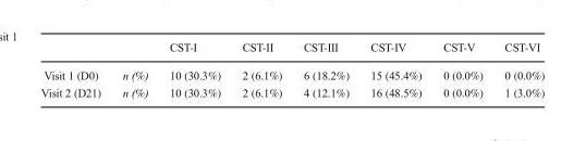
<table><thead><tr><td></td><td></td><td>CST-I</td><td>CST-II</td><td>CST-III</td><td>CST-IV</td><td>CST-V</td><td>CST-VI</td></tr></thead><tbody><tr><td>Visit 1 (D0)</td><td>n (%)</td><td>10 (30.3%)</td><td>2 (6.1%)</td><td>6 (18.2%)</td><td>15 (45.4%)</td><td>0 (0.0%)</td><td>0 (0.0%)</td></tr><tr><td>Visit 2 (D21)</td><td>n (%)</td><td>10 (30.3%)</td><td>2 (6.1%)</td><td>4 (12.1%)</td><td>16 (48.5%)</td><td>0 (0.0%)</td><td>1 (3.0%)</td></tr></tbody></table>